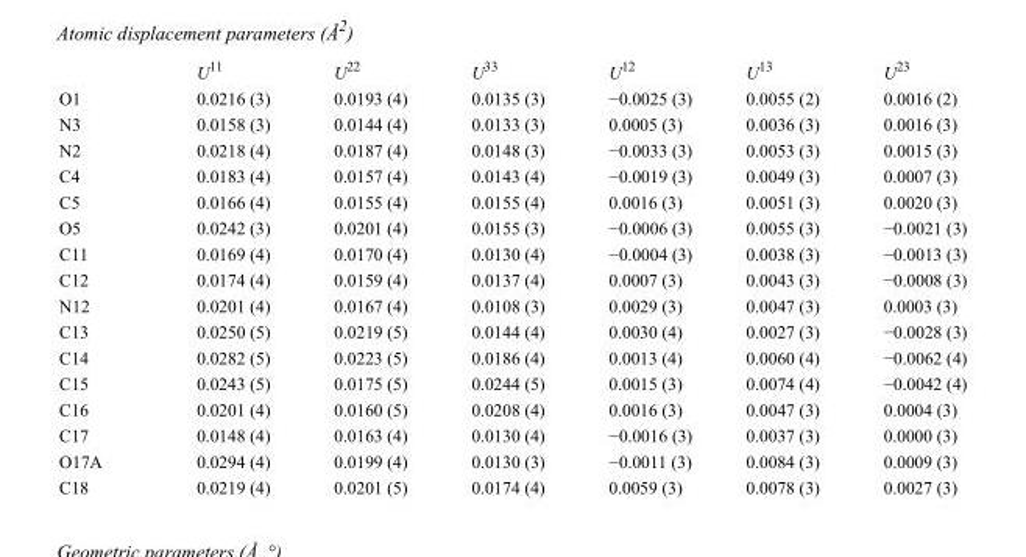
<table><thead><tr><td></td><td>U<sup>11</sup></td><td>U<sup>22</sup></td><td>U<sup>33</sup></td><td>U<sup>12</sup></td><td>U<sup>13</sup></td><td>U<sup>23</sup></td></tr></thead><tbody><tr><td>O1</td><td>0.0216 (3)</td><td>0.0193 (4)</td><td>0.0135 (3)</td><td>−0.0025 (3)</td><td>0.0055 (2)</td><td>0.0016 (2)</td></tr><tr><td>N3</td><td>0.0158 (3)</td><td>0.0144 (4)</td><td>0.0133 (3)</td><td>0.0005 (3)</td><td>0.0036 (3)</td><td>0.0016 (3)</td></tr><tr><td>N2</td><td>0.0218 (4)</td><td>0.0187 (4)</td><td>0.0148 (3)</td><td>−0.0033 (3)</td><td>0.0053 (3)</td><td>0.0015 (3)</td></tr><tr><td>C4</td><td>0.0183 (4)</td><td>0.0157 (4)</td><td>0.0143 (4)</td><td>−0.0019 (3)</td><td>0.0049 (3)</td><td>0.0007 (3)</td></tr><tr><td>C5</td><td>0.0166 (4)</td><td>0.0155 (4)</td><td>0.0155 (4)</td><td>0.0016 (3)</td><td>0.0051 (3)</td><td>0.0020 (3)</td></tr><tr><td>O5</td><td>0.0242 (3)</td><td>0.0201 (4)</td><td>0.0155 (3)</td><td>−0.0006 (3)</td><td>0.0055 (3)</td><td>−0.0021 (3)</td></tr><tr><td>C11</td><td>0.0169 (4)</td><td>0.0170 (4)</td><td>0.0130 (4)</td><td>−0.0004 (3)</td><td>0.0038 (3)</td><td>−0.0013 (3)</td></tr><tr><td>C12</td><td>0.0174 (4)</td><td>0.0159 (4)</td><td>0.0137 (4)</td><td>0.0007 (3)</td><td>0.0043 (3)</td><td>−0.0008 (3)</td></tr><tr><td>N12</td><td>0.0201 (4)</td><td>0.0167 (4)</td><td>0.0108 (3)</td><td>0.0029 (3)</td><td>0.0047 (3)</td><td>0.0003 (3)</td></tr><tr><td>C13</td><td>0.0250 (5)</td><td>0.0219 (5)</td><td>0.0144 (4)</td><td>0.0030 (4)</td><td>0.0027 (3)</td><td>−0.0028 (3)</td></tr><tr><td>C14</td><td>0.0282 (5)</td><td>0.0223 (5)</td><td>0.0186 (4)</td><td>0.0013 (4)</td><td>0.0060 (4)</td><td>−0.0062 (4)</td></tr><tr><td>C15</td><td>0.0243 (5)</td><td>0.0175 (5)</td><td>0.0244 (5)</td><td>0.0015 (3)</td><td>0.0074 (4)</td><td>−0.0042 (4)</td></tr><tr><td>C16</td><td>0.0201 (4)</td><td>0.0160 (5)</td><td>0.0208 (4)</td><td>0.0016 (3)</td><td>0.0047 (3)</td><td>0.0004 (3)</td></tr><tr><td>C17</td><td>0.0148 (4)</td><td>0.0163 (4)</td><td>0.0130 (4)</td><td>−0.0016 (3)</td><td>0.0037 (3)</td><td>0.0000 (3)</td></tr><tr><td>O17A</td><td>0.0294 (4)</td><td>0.0199 (4)</td><td>0.0130 (3)</td><td>−0.0011 (3)</td><td>0.0084 (3)</td><td>0.0009 (3)</td></tr><tr><td>C18</td><td>0.0219 (4)</td><td>0.0201 (5)</td><td>0.0174 (4)</td><td>0.0059 (3)</td><td>0.0078 (3)</td><td>0.0027 (3)</td></tr></tbody></table>